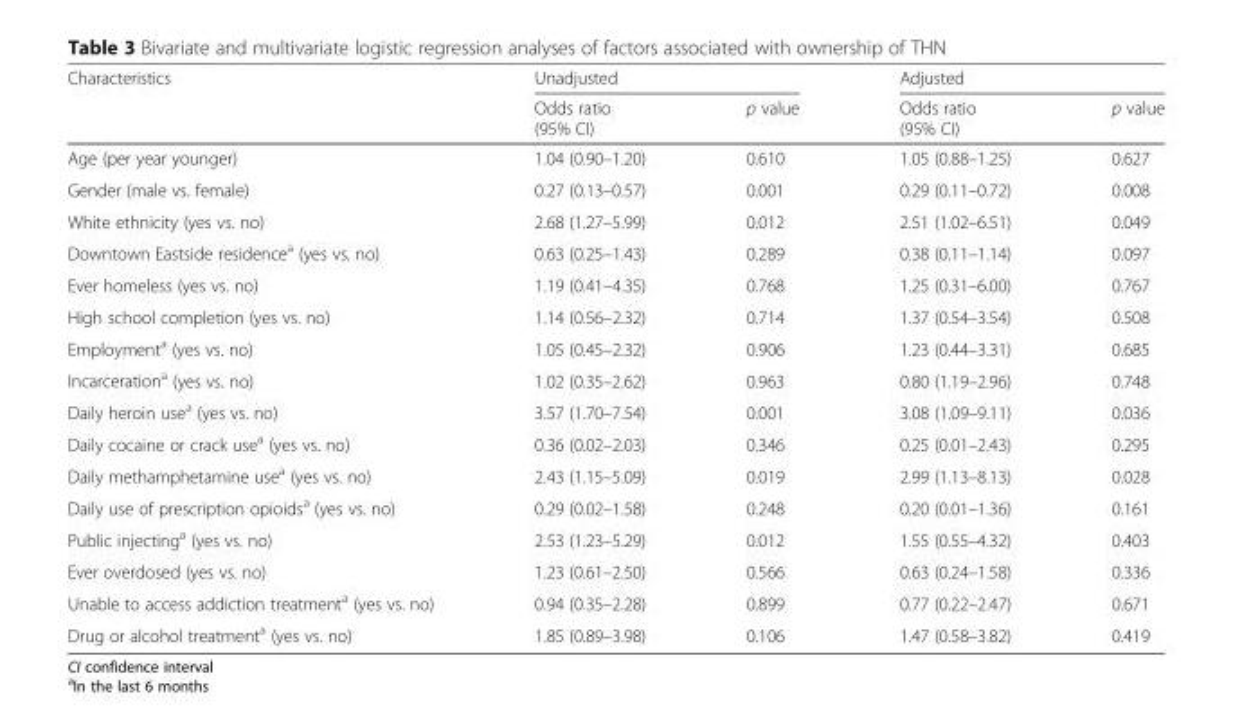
<table><thead><tr><td rowspan="2">Characteristics</td><td colspan="2">Unadjusted</td><td colspan="2">Adjusted</td></tr><tr><td>Odds ratio (95% CI)</td><td>p value</td><td>Odds ratio (95% CI)</td><td>p value</td></tr></thead><tbody><tr><td>Age (per year younger)</td><td>1.04 (0.90–1.20)</td><td>0.610</td><td>1.05 (0.88–1.25)</td><td>0.627</td></tr><tr><td>Gender (male vs. female)</td><td>0.27 (0.13–0.57)</td><td>0.001</td><td>0.29 (0.11–0.72)</td><td>0.008</td></tr><tr><td>White ethnicity (yes vs. no)</td><td>2.68 (1.27–5.99)</td><td>0.012</td><td>2.51 (1.02–6.51)</td><td>0.049</td></tr><tr><td>Downtown Eastside residence<sup>a</sup> (yes vs. no)</td><td>0.63 (0.25–1.43)</td><td>0.289</td><td>0.38 (0.11–1.14)</td><td>0.097</td></tr><tr><td>Ever homeless (yes vs. no)</td><td>1.19 (0.41–4.35)</td><td>0.768</td><td>1.25 (0.31–6.00)</td><td>0.767</td></tr><tr><td>High school completion (yes vs. no)</td><td>1.14 (0.56–2.32)</td><td>0.714</td><td>1.37 (0.54–3.54)</td><td>0.508</td></tr><tr><td>Employment<sup>a</sup> (yes vs. no)</td><td>1.05 (0.45–2.32)</td><td>0.906</td><td>1.23 (0.44–3.31)</td><td>0.685</td></tr><tr><td>Incarceration<sup>a</sup> (yes vs. no)</td><td>1.02 (0.35–2.62)</td><td>0.963</td><td>0.80 (1.19–2.96)</td><td>0.748</td></tr><tr><td>Daily heroin use<sup>a</sup> (yes vs. no)</td><td>3.57 (1.70–7.54)</td><td>0.001</td><td>3.08 (1.09–9.11)</td><td>0.036</td></tr><tr><td>Daily cocaine or crack use<sup>a</sup> (yes vs. no)</td><td>0.36 (0.02–2.03)</td><td>0.346</td><td>0.25 (0.01–2.43)</td><td>0.295</td></tr><tr><td>Daily methamphetamine use<sup>a</sup> (yes vs. no)</td><td>2.43 (1.15–5.09)</td><td>0.019</td><td>2.99 (1.13–8.13)</td><td>0.028</td></tr><tr><td>Daily use of prescription opioids<sup>a</sup> (yes vs. no)</td><td>0.29 (0.02–1.58)</td><td>0.248</td><td>0.20 (0.01–1.36)</td><td>0.161</td></tr><tr><td>Public injecting<sup>a</sup> (yes vs. no)</td><td>2.53 (1.23–5.29)</td><td>0.012</td><td>1.55 (0.55–4.32)</td><td>0.403</td></tr><tr><td>Ever overdosed (yes vs. no)</td><td>1.23 (0.61–2.50)</td><td>0.566</td><td>0.63 (0.24–1.58)</td><td>0.336</td></tr><tr><td>Unable to access addiction treatment<sup>a</sup> (yes vs. no)</td><td>0.94 (0.35–2.28)</td><td>0.899</td><td>0.77 (0.22–2.47)</td><td>0.671</td></tr><tr><td>Drug or alcohol treatment<sup>a</sup> (yes vs. no)</td><td>1.85 (0.89–3.98)</td><td>0.106</td><td>1.47 (0.58–3.82)</td><td>0.419</td></tr></tbody></table>